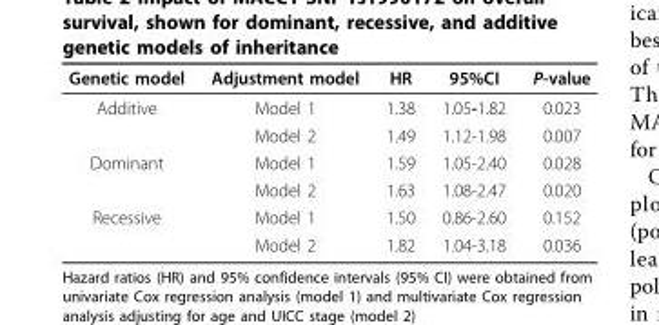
<table><thead><tr><td>Genetic model</td><td>Adjustment model</td><td>HR</td><td>95%CI</td><td>P-value</td></tr></thead><tbody><tr><td rowspan="2">Additive</td><td>Model 1</td><td>1.38</td><td>1.05-1.82</td><td>0.023</td></tr><tr><td>Model 2</td><td>1.49</td><td>1.12-1.98</td><td>0.007</td></tr><tr><td rowspan="2">Dominant</td><td>Model 1</td><td>1.59</td><td>1.05-2.40</td><td>0.028</td></tr><tr><td>Model 2</td><td>1.63</td><td>1.08-2.47</td><td>0.020</td></tr><tr><td rowspan="2">Recessive</td><td>Model 1</td><td>1.50</td><td>0.86-2.60</td><td>0.152</td></tr><tr><td>Model 2</td><td>1.82</td><td>1.04-3.18</td><td>0.036</td></tr></tbody></table>